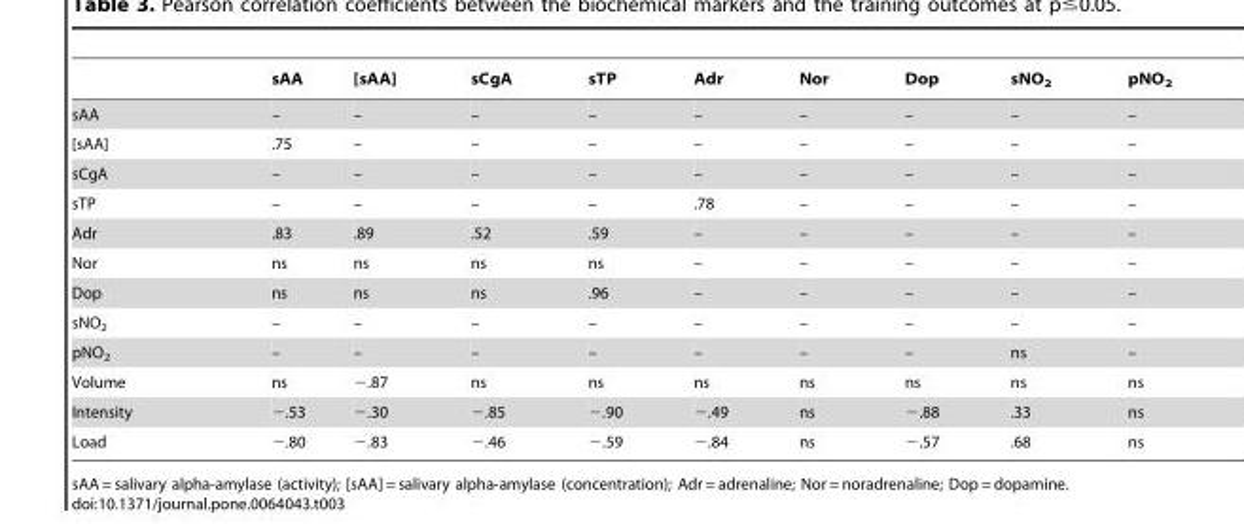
<table><thead><tr><td></td><td>sAA</td><td>[sAA]</td><td>sCgA</td><td>sTP</td><td>Adr</td><td>Nor</td><td>Dop</td><td>sNO<sub>2</sub></td><td>pNO<sub>2</sub></td></tr></thead><tbody><tr><td>sAA</td><td>–</td><td>–</td><td>–</td><td>–</td><td>–</td><td>–</td><td>–</td><td>–</td><td>–</td></tr><tr><td>[sAA]</td><td>.75</td><td>–</td><td>–</td><td>–</td><td>–</td><td>–</td><td>–</td><td>–</td><td>–</td></tr><tr><td>sCgA</td><td>–</td><td>–</td><td>–</td><td>–</td><td>–</td><td>–</td><td>–</td><td>–</td><td>–</td></tr><tr><td>sTP</td><td>–</td><td>–</td><td>–</td><td>–</td><td>.78</td><td>–</td><td>–</td><td>–</td><td>–</td></tr><tr><td>Adr</td><td>.83</td><td>.89</td><td>.52</td><td>.59</td><td>–</td><td>–</td><td>–</td><td>–</td><td>–</td></tr><tr><td>Nor</td><td>ns</td><td>ns</td><td>ns</td><td>ns</td><td>–</td><td>–</td><td>–</td><td>–</td><td>–</td></tr><tr><td>Dop</td><td>ns</td><td>ns</td><td>ns</td><td>.96</td><td>–</td><td>–</td><td>–</td><td>–</td><td>–</td></tr><tr><td>sNO<sub>2</sub></td><td>–</td><td>–</td><td>–</td><td>–</td><td>–</td><td>–</td><td>–</td><td>–</td><td>–</td></tr><tr><td>pNO<sub>2</sub></td><td>–</td><td>–</td><td>–</td><td>–</td><td>–</td><td>–</td><td>–</td><td>ns</td><td>–</td></tr><tr><td>Volume</td><td>ns</td><td>−.87</td><td>ns</td><td>ns</td><td>ns</td><td>ns</td><td>ns</td><td>ns</td><td>ns</td></tr><tr><td>Intensity</td><td>−.53</td><td>−.30</td><td>−.85</td><td>−.90</td><td>−.49</td><td>ns</td><td>−.88</td><td>.33</td><td>ns</td></tr><tr><td>Load</td><td>−.80</td><td>−.83</td><td>−.46</td><td>−.59</td><td>−.84</td><td>ns</td><td>−.57</td><td>.68</td><td>ns</td></tr></tbody></table>